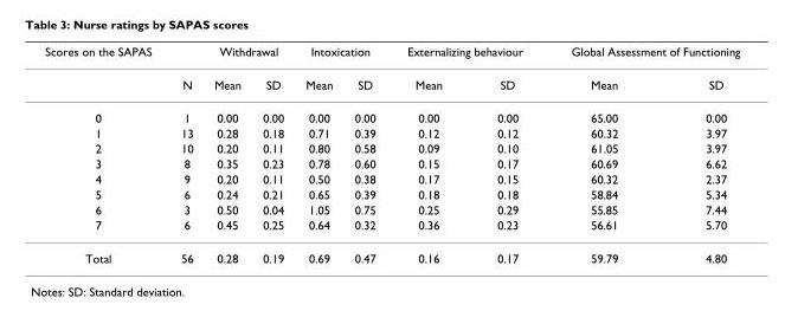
<table><thead><tr><td rowspan="2">Scores on the SAPAS</td><td rowspan="2">N</td><td colspan="2">Withdrawal</td><td colspan="2">Intoxication</td><td colspan="2">Externalizing behaviour</td><td colspan="2">Global Assessment of Functioning</td></tr><tr><td>Mean</td><td>SD</td><td>Mean</td><td>SD</td><td>Mean</td><td>SD</td><td>Mean</td><td>SD</td></tr></thead><tbody><tr><td>0</td><td>1</td><td>0.00</td><td>0.00</td><td>0.00</td><td>0.00</td><td>0.00</td><td>0.00</td><td>65.00</td><td>0.00</td></tr><tr><td>1</td><td>13</td><td>0.28</td><td>0.18</td><td>0.71</td><td>0.39</td><td>0.12</td><td>0.12</td><td>60.32</td><td>3.97</td></tr><tr><td>2</td><td>10</td><td>0.20</td><td>0.11</td><td>0.80</td><td>0.58</td><td>0.09</td><td>0.10</td><td>61.05</td><td>3.97</td></tr><tr><td>3</td><td>8</td><td>0.35</td><td>0.23</td><td>0.78</td><td>0.60</td><td>0.15</td><td>0.17</td><td>60.69</td><td>6.62</td></tr><tr><td>4</td><td>9</td><td>0.20</td><td>0.11</td><td>0.50</td><td>0.38</td><td>0.17</td><td>0.15</td><td>60.32</td><td>2.37</td></tr><tr><td>5</td><td>6</td><td>0.24</td><td>0.21</td><td>0.65</td><td>0.39</td><td>0.18</td><td>0.18</td><td>58.84</td><td>5.34</td></tr><tr><td>6</td><td>3</td><td>0.50</td><td>0.04</td><td>1.05</td><td>0.75</td><td>0.25</td><td>0.29</td><td>55.85</td><td>7.44</td></tr><tr><td>7</td><td>6</td><td>0.45</td><td>0.25</td><td>0.64</td><td>0.32</td><td>0.36</td><td>0.23</td><td>56.61</td><td>5.70</td></tr><tr><td>Total</td><td>56</td><td>0.28</td><td>0.19</td><td>0.69</td><td>0.47</td><td>0.16</td><td>0.17</td><td>59.79</td><td>4.80</td></tr></tbody></table>